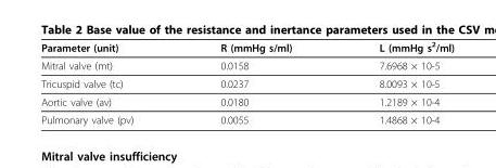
<table><thead><tr><td>Parameter (unit)</td><td>R (mmHg s/ml)</td><td>L (mmHg s<sup>2</sup>/ml)</td></tr></thead><tbody><tr><td>Mitral valve (mt)</td><td>0.0158</td><td>7.6968 × 10-5</td></tr><tr><td>Tricuspid valve (tc)</td><td>0.0237</td><td>8.0093 × 10-5</td></tr><tr><td>Aortic valve (av)</td><td>0.0180</td><td>1.2189 × 10-4</td></tr><tr><td>Pulmonary valve (pv)</td><td>0.0055</td><td>1.4868 × 10-4</td></tr></tbody></table>